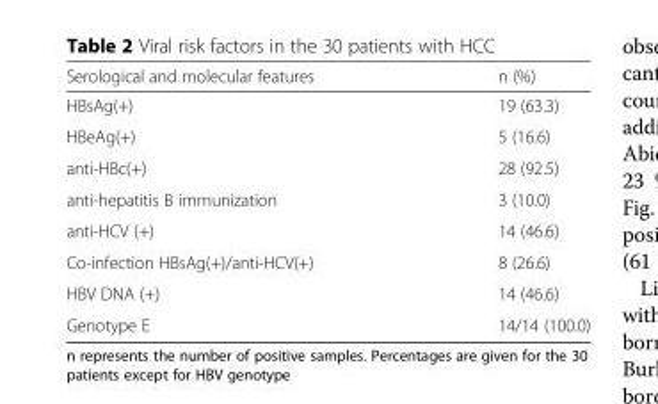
<table><thead><tr><td>Serological and molecular features</td><td>n (%)</td></tr></thead><tbody><tr><td>HBsAg(+)</td><td>19 (63.3)</td></tr><tr><td>HBeAg(+)</td><td>5 (16.6)</td></tr><tr><td>anti-HBc(+)</td><td>28 (92.5)</td></tr><tr><td>anti-hepatitis B immunization</td><td>3 (10.0)</td></tr><tr><td>anti-HCV (+)</td><td>14 (46.6)</td></tr><tr><td>Co-infection HBsAg(+)/anti-HCV(+)</td><td>8 (26.6)</td></tr><tr><td>HBV DNA (+)</td><td>14 (46.6)</td></tr><tr><td>Genotype E</td><td>14/14 (100.0)</td></tr></tbody></table>